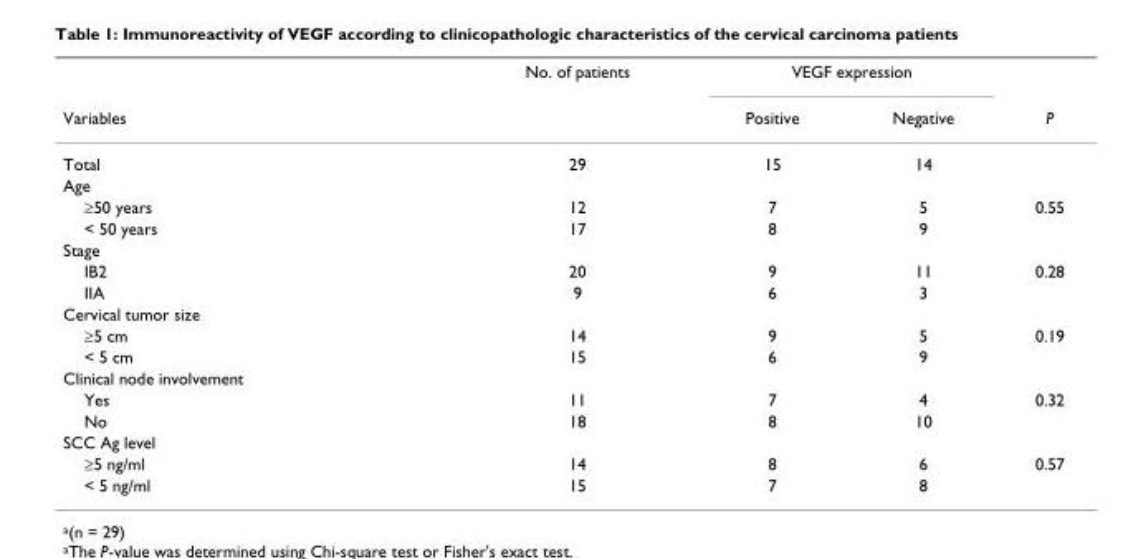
<table><thead><tr><td rowspan="2">Variables</td><td rowspan="2">No. of patients</td><td colspan="2">VEGF expression</td><td rowspan="2">P</td></tr><tr><td>Positive</td><td>Negative</td></tr></thead><tbody><tr><td>Total</td><td>29</td><td>15</td><td>14</td><td></td></tr><tr><td colspan="5">Age</td></tr><tr><td>≥50 years</td><td>12</td><td>7</td><td>5</td><td>0.55</td></tr><tr><td>&lt; 50 years</td><td>17</td><td>8</td><td>9</td><td></td></tr><tr><td colspan="5">Stage</td></tr><tr><td>IB2</td><td>20</td><td>9</td><td>11</td><td>0.28</td></tr><tr><td>IIA</td><td>9</td><td>6</td><td>3</td><td></td></tr><tr><td colspan="5">Cervical tumor size</td></tr><tr><td>≥5 cm</td><td>14</td><td>9</td><td>5</td><td>0.19</td></tr><tr><td>&lt; 5 cm</td><td>15</td><td>6</td><td>9</td><td></td></tr><tr><td colspan="5">Clinical node involvement</td></tr><tr><td>Yes</td><td>11</td><td>7</td><td>4</td><td>0.32</td></tr><tr><td>No</td><td>18</td><td>8</td><td>10</td><td></td></tr><tr><td colspan="5">SCC Ag level</td></tr><tr><td>≥5 ng/ml</td><td>14</td><td>8</td><td>6</td><td>0.57</td></tr><tr><td>&lt; 5 ng/ml</td><td>15</td><td>7</td><td>8</td><td></td></tr></tbody></table>